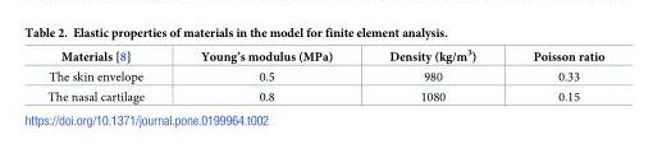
<table><thead><tr><td>Materials [8]</td><td>Young’s modulus (MPa)</td><td>Density (kg/m<sup>3</sup>)</td><td>Poisson ratio</td></tr></thead><tbody><tr><td>The skin envelope</td><td>0.5</td><td>980</td><td>0.33</td></tr><tr><td>The nasal cartilage</td><td>0.8</td><td>1080</td><td>0.15</td></tr></tbody></table>